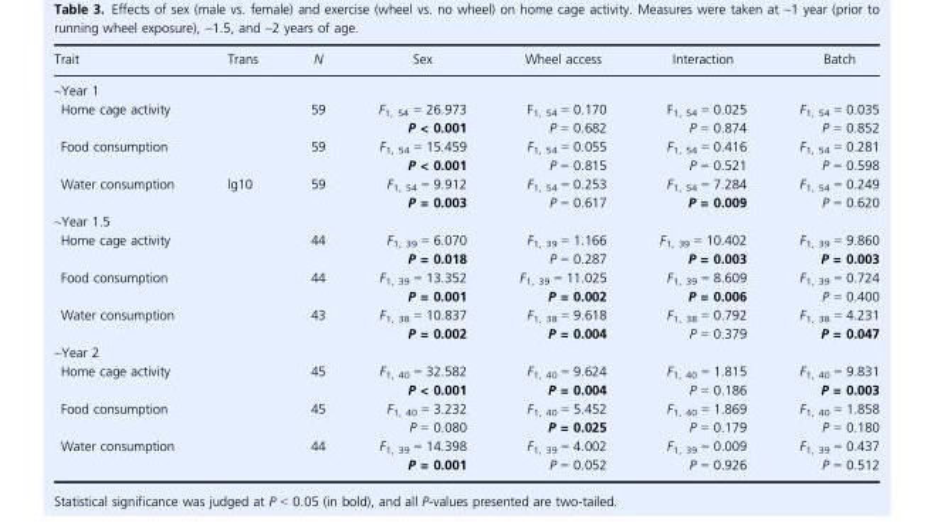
<table><thead><tr><td>Trait</td><td>Trans</td><td>N</td><td>Sex</td><td>Wheel access</td><td>Interaction</td><td>Batch</td></tr></thead><tbody><tr><td colspan="7">~Year 1</td></tr><tr><td rowspan="2">Home cage activity</td><td rowspan="2"></td><td rowspan="2">59</td><td>F<sub>1, 54</sub> = 26.973</td><td>F<sub>1, 54</sub> = 0.170</td><td>F<sub>1, 54</sub> = 0.025</td><td>F<sub>1, 54</sub> = 0.035</td></tr><tr><td>P &lt; 0.001</td><td>P = 0.682</td><td>P = 0.874</td><td>P = 0.852</td></tr><tr><td rowspan="2">Food consumption</td><td rowspan="2"></td><td rowspan="2">59</td><td>F<sub>1, 54</sub> = 15.459</td><td>F<sub>1, 54</sub> = 0.055</td><td>F<sub>1, 54</sub> = 0.416</td><td>F<sub>1, 54</sub> = 0.281</td></tr><tr><td>P &lt; 0.001</td><td>P = 0.815</td><td>P = 0.521</td><td>P = 0.598</td></tr><tr><td rowspan="2">Water consumption</td><td rowspan="2">lg10</td><td rowspan="2">59</td><td>F<sub>1, 54</sub> = 9.912</td><td>F<sub>1, 54</sub> = 0.253</td><td>F<sub>1, 54</sub> = 7.284</td><td>F<sub>1, 54</sub> = 0.249</td></tr><tr><td>P = 0.003</td><td>P = 0.617</td><td>P = 0.009</td><td>P = 0.620</td></tr><tr><td colspan="7">~Year 1.5</td></tr><tr><td rowspan="2">Home cage activity</td><td rowspan="2"></td><td rowspan="2">44</td><td>F<sub>1, 39</sub> = 6.070</td><td>F<sub>1, 39</sub> = 1.166</td><td>F<sub>1, 39</sub> = 10.402</td><td>F<sub>1, 39</sub> = 9.860</td></tr><tr><td>P = 0.018</td><td>P = 0.287</td><td>P = 0.003</td><td>P = 0.003</td></tr><tr><td rowspan="2">Food consumption</td><td rowspan="2"></td><td rowspan="2">44</td><td>F<sub>1, 39</sub> = 13.352</td><td>F<sub>1, 39</sub> = 11.025</td><td>F<sub>1, 39</sub> = 8.609</td><td>F<sub>1, 39</sub> = 0.724</td></tr><tr><td>P = 0.001</td><td>P = 0.002</td><td>P = 0.006</td><td>P = 0.400</td></tr><tr><td rowspan="2">Water consumption</td><td rowspan="2"></td><td rowspan="2">43</td><td>F<sub>1, 38</sub> = 10.837</td><td>F<sub>1, 38</sub> = 9.618</td><td>F<sub>1, 38</sub> = 0.792</td><td>F<sub>1, 38</sub> = 4.231</td></tr><tr><td>P = 0.002</td><td>P = 0.004</td><td>P = 0.379</td><td>P = 0.047</td></tr><tr><td colspan="7">~Year 2</td></tr><tr><td rowspan="2">Home cage activity</td><td rowspan="2"></td><td rowspan="2">45</td><td>F<sub>1, 40</sub> = 32.582</td><td>F<sub>1, 40</sub> = 9.624</td><td>F<sub>1, 40</sub> = 1.815</td><td>F<sub>1, 40</sub> = 9.831</td></tr><tr><td>P &lt; 0.001</td><td>P = 0.004</td><td>P = 0.186</td><td>P = 0.003</td></tr><tr><td rowspan="2">Food consumption</td><td rowspan="2"></td><td rowspan="2">45</td><td>F<sub>1, 40</sub> = 3.232</td><td>F<sub>1, 40</sub> = 5.452</td><td>F<sub>1, 40</sub> = 1.869</td><td>F<sub>1, 40</sub> = 1.858</td></tr><tr><td>P = 0.080</td><td>P = 0.025</td><td>P = 0.179</td><td>P = 0.180</td></tr><tr><td rowspan="2">Water consumption</td><td rowspan="2"></td><td rowspan="2">44</td><td>F<sub>1, 39</sub> = 14.398</td><td>F<sub>1, 39</sub> = 4.002</td><td>F<sub>1, 39</sub> = 0.009</td><td>F<sub>1, 39</sub> = 0.437</td></tr><tr><td>P = 0.001</td><td>P = 0.052</td><td>P = 0.926</td><td>P = 0.512</td></tr></tbody></table>